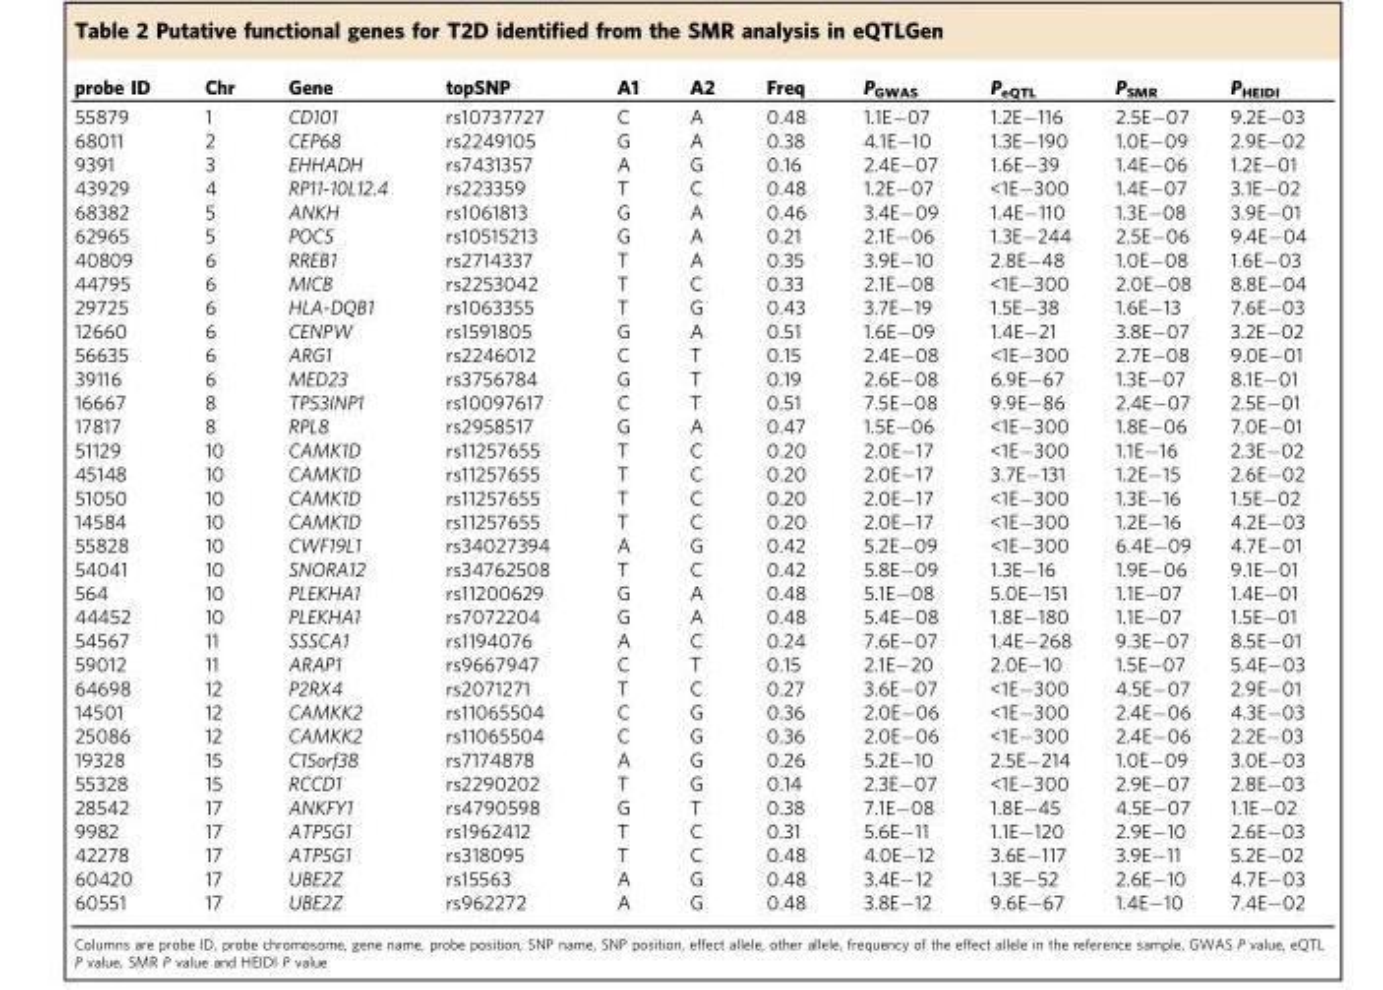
<table><thead><tr><td>probe ID</td><td>Chr</td><td>Gene</td><td>topSNP</td><td>A1</td><td>A2</td><td>Freq</td><td>P<sub>GWAS</sub></td><td>P<sub>eQTL</sub></td><td>P<sub>SMR</sub></td><td>P<sub>HEIDI</sub></td></tr></thead><tbody><tr><td>55879</td><td>1</td><td>CD101</td><td>rs10737727</td><td>C</td><td>A</td><td>0.48</td><td>1.1E−07</td><td>1.2E−116</td><td>2.5E−07</td><td>9.2E−03</td></tr><tr><td>68011</td><td>2</td><td>CEP68</td><td>rs2249105</td><td>G</td><td>A</td><td>0.38</td><td>4.1E−10</td><td>1.3E−190</td><td>1.0E−09</td><td>2.9E−02</td></tr><tr><td>9391</td><td>3</td><td>EHHADH</td><td>rs7431357</td><td>A</td><td>G</td><td>0.16</td><td>2.4E−07</td><td>1.6E−39</td><td>1.4E−06</td><td>1.2E−01</td></tr><tr><td>43929</td><td>4</td><td>RP11-10L12.4</td><td>rs223359</td><td>T</td><td>C</td><td>0.48</td><td>1.2E−07</td><td>&lt;1E−300</td><td>1.4E−07</td><td>3.1E−02</td></tr><tr><td>68382</td><td>5</td><td>ANKH</td><td>rs1061813</td><td>G</td><td>A</td><td>0.46</td><td>3.4E−09</td><td>1.4E−110</td><td>1.3E−08</td><td>3.9E−01</td></tr><tr><td>62965</td><td>5</td><td>POC5</td><td>rs10515213</td><td>G</td><td>A</td><td>0.21</td><td>2.1E−06</td><td>1.3E−244</td><td>2.5E−06</td><td>9.4E−04</td></tr><tr><td>40809</td><td>6</td><td>RREB1</td><td>rs2714337</td><td>T</td><td>A</td><td>0.35</td><td>3.9E−10</td><td>2.8E−48</td><td>1.0E−08</td><td>1.6E−03</td></tr><tr><td>44795</td><td>6</td><td>MICB</td><td>rs2253042</td><td>T</td><td>C</td><td>0.33</td><td>2.1E−08</td><td>&lt;1E−300</td><td>2.0E−08</td><td>8.8E−04</td></tr><tr><td>29725</td><td>6</td><td>HLA-DQB1</td><td>rs1063355</td><td>T</td><td>G</td><td>0.43</td><td>3.7E−19</td><td>1.5E−38</td><td>1.6E−13</td><td>7.6E−03</td></tr><tr><td>12660</td><td>6</td><td>CENPW</td><td>rs1591805</td><td>G</td><td>A</td><td>0.51</td><td>1.6E−09</td><td>1.4E−21</td><td>3.8E−07</td><td>3.2E−02</td></tr><tr><td>56635</td><td>6</td><td>ARG1</td><td>rs2246012</td><td>C</td><td>T</td><td>0.15</td><td>2.4E−08</td><td>&lt;1E−300</td><td>2.7E−08</td><td>9.0E−01</td></tr><tr><td>39116</td><td>6</td><td>MED23</td><td>rs3756784</td><td>G</td><td>T</td><td>0.19</td><td>2.6E−08</td><td>6.9E−67</td><td>1.3E−07</td><td>8.1E−01</td></tr><tr><td>16667</td><td>8</td><td>TP53INP1</td><td>rs10097617</td><td>C</td><td>T</td><td>0.51</td><td>7.5E−08</td><td>9.9E−86</td><td>2.4E−07</td><td>2.5E−01</td></tr><tr><td>17817</td><td>8</td><td>RPL8</td><td>rs2958517</td><td>G</td><td>A</td><td>0.47</td><td>1.5E−06</td><td>&lt;1E−300</td><td>1.8E−06</td><td>7.0E−01</td></tr><tr><td>51129</td><td>10</td><td>CAMK1D</td><td>rs11257655</td><td>T</td><td>C</td><td>0.20</td><td>2.0E−17</td><td>&lt;1E−300</td><td>1.1E−16</td><td>2.3E−02</td></tr><tr><td>45148</td><td>10</td><td>CAMK1D</td><td>rs11257655</td><td>T</td><td>C</td><td>0.20</td><td>2.0E−17</td><td>3.7E−131</td><td>1.2E−15</td><td>2.6E−02</td></tr><tr><td>51050</td><td>10</td><td>CAMK1D</td><td>rs11257655</td><td>T</td><td>C</td><td>0.20</td><td>2.0E−17</td><td>&lt;1E−300</td><td>1.3E−16</td><td>1.5E−02</td></tr><tr><td>14584</td><td>10</td><td>CAMK1D</td><td>rs11257655</td><td>T</td><td>C</td><td>0.20</td><td>2.0E−17</td><td>&lt;1E−300</td><td>1.2E−16</td><td>4.2E−03</td></tr><tr><td>55828</td><td>10</td><td>CWF19L1</td><td>rs34027394</td><td>A</td><td>G</td><td>0.42</td><td>5.2E−09</td><td>&lt;1E−300</td><td>6.4E−09</td><td>4.7E−01</td></tr><tr><td>54041</td><td>10</td><td>SNORA12</td><td>rs34762508</td><td>T</td><td>C</td><td>0.42</td><td>5.8E−09</td><td>1.3E−16</td><td>1.9E−06</td><td>9.1E−01</td></tr><tr><td>564</td><td>10</td><td>PLEKHA1</td><td>rs11200629</td><td>G</td><td>A</td><td>0.48</td><td>5.1E−08</td><td>5.0E−151</td><td>1.1E−07</td><td>1.4E−01</td></tr><tr><td>44452</td><td>10</td><td>PLEKHA1</td><td>rs7072204</td><td>G</td><td>A</td><td>0.48</td><td>5.4E−08</td><td>1.8E−180</td><td>1.1E−07</td><td>1.5E−01</td></tr><tr><td>54567</td><td>11</td><td>SSSCA1</td><td>rs1194076</td><td>A</td><td>C</td><td>0.24</td><td>7.6E−07</td><td>1.4E−268</td><td>9.3E−07</td><td>8.5E−01</td></tr><tr><td>59012</td><td>11</td><td>ARAP1</td><td>rs9667947</td><td>C</td><td>T</td><td>0.15</td><td>2.1E−20</td><td>2.0E−10</td><td>1.5E−07</td><td>5.4E−03</td></tr><tr><td>64698</td><td>12</td><td>P2RX4</td><td>rs2071271</td><td>T</td><td>C</td><td>0.27</td><td>3.6E−07</td><td>&lt;1E−300</td><td>4.5E−07</td><td>2.9E−01</td></tr><tr><td>14501</td><td>12</td><td>CAMKK2</td><td>rs11065504</td><td>C</td><td>G</td><td>0.36</td><td>2.0E−06</td><td>&lt;1E−300</td><td>2.4E−06</td><td>4.3E−03</td></tr><tr><td>25086</td><td>12</td><td>CAMKK2</td><td>rs11065504</td><td>C</td><td>G</td><td>0.36</td><td>2.0E−06</td><td>&lt;1E−300</td><td>2.4E−06</td><td>2.2E−03</td></tr><tr><td>19328</td><td>15</td><td>C15orf38</td><td>rs7174878</td><td>A</td><td>G</td><td>0.26</td><td>5.2E−10</td><td>2.5E−214</td><td>1.0E−09</td><td>3.0E−03</td></tr><tr><td>55328</td><td>15</td><td>RCCD1</td><td>rs2290202</td><td>T</td><td>G</td><td>0.14</td><td>2.3E−07</td><td>&lt;1E−300</td><td>2.9E−07</td><td>2.8E−03</td></tr><tr><td>28542</td><td>17</td><td>ANKFY1</td><td>rs4790598</td><td>G</td><td>T</td><td>0.38</td><td>7.1E−08</td><td>1.8E−45</td><td>4.5E−07</td><td>1.1E−02</td></tr><tr><td>9982</td><td>17</td><td>ATP5G1</td><td>rs1962412</td><td>T</td><td>C</td><td>0.31</td><td>5.6E−11</td><td>1.1E−120</td><td>2.9E−10</td><td>2.6E−03</td></tr><tr><td>42278</td><td>17</td><td>ATP5G1</td><td>rs318095</td><td>T</td><td>C</td><td>0.48</td><td>4.0E−12</td><td>3.6E−117</td><td>3.9E−11</td><td>5.2E−02</td></tr><tr><td>60420</td><td>17</td><td>UBE2Z</td><td>rs15563</td><td>A</td><td>G</td><td>0.48</td><td>3.4E−12</td><td>1.3E−52</td><td>2.6E−10</td><td>4.7E−03</td></tr><tr><td>60551</td><td>17</td><td>UBE2Z</td><td>rs962272</td><td>A</td><td>G</td><td>0.48</td><td>3.8E−12</td><td>9.6E−67</td><td>1.4E−10</td><td>7.4E−02</td></tr></tbody></table>